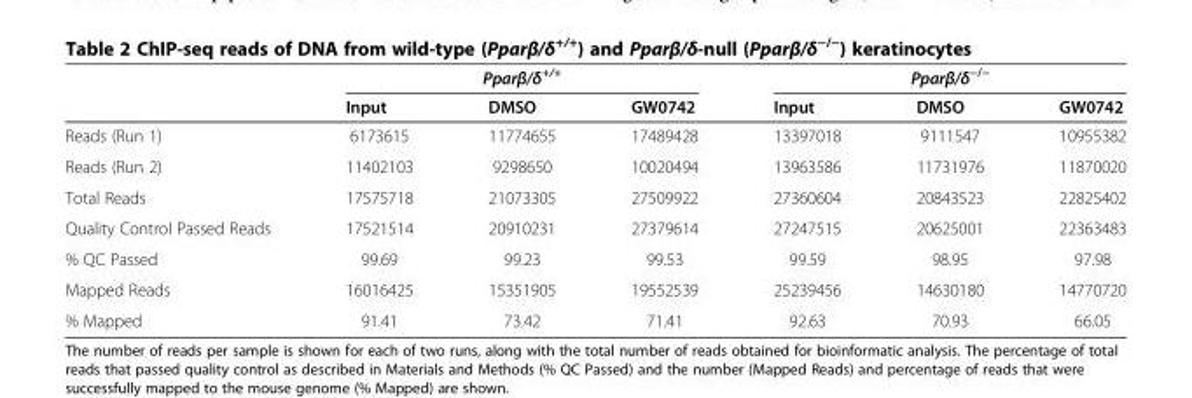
<table><thead><tr><td rowspan="2"></td><td colspan="3">Pparβ/δ<sup>+/+</sup></td><td colspan="3">Pparβ/δ<sup>−/−</sup></td></tr><tr><td>Input</td><td>DMSO</td><td>GW0742</td><td>Input</td><td>DMSO</td><td>GW0742</td></tr></thead><tbody><tr><td>Reads (Run 1)</td><td>6173615</td><td>11774655</td><td>17489428</td><td>13397018</td><td>9111547</td><td>10955382</td></tr><tr><td>Reads (Run 2)</td><td>11402103</td><td>9298650</td><td>10020494</td><td>13963586</td><td>11731976</td><td>11870020</td></tr><tr><td>Total Reads</td><td>17575718</td><td>21073305</td><td>27509922</td><td>27360604</td><td>20843523</td><td>22825402</td></tr><tr><td>Quality Control Passed Reads</td><td>17521514</td><td>20910231</td><td>27379614</td><td>27247515</td><td>20625001</td><td>22363483</td></tr><tr><td>% QC Passed</td><td>99.69</td><td>99.23</td><td>99.53</td><td>99.59</td><td>98.95</td><td>97.98</td></tr><tr><td>Mapped Reads</td><td>16016425</td><td>15351905</td><td>19552539</td><td>25239456</td><td>14630180</td><td>14770720</td></tr><tr><td>% Mapped</td><td>91.41</td><td>73.42</td><td>71.41</td><td>92.63</td><td>70.93</td><td>66.05</td></tr></tbody></table>